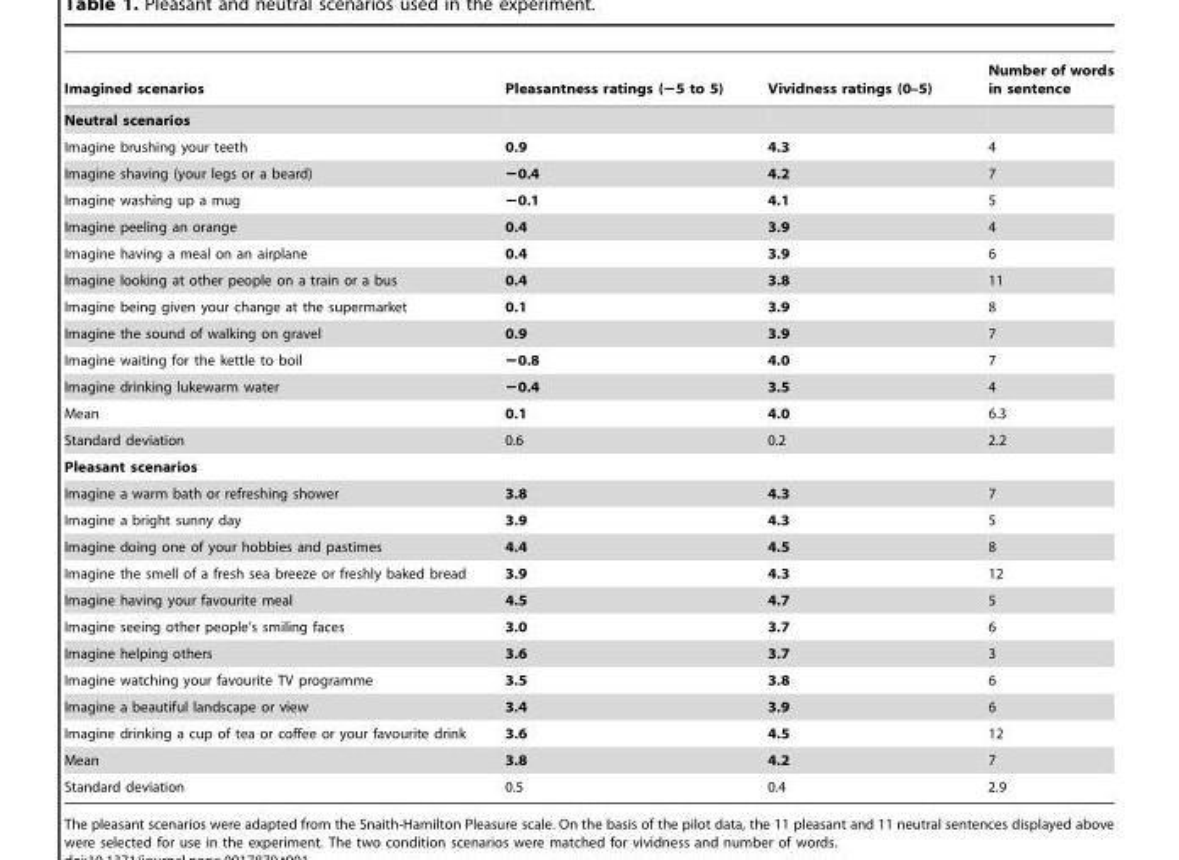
<table><thead><tr><td>Imagined scenarios</td><td>Pleasantness ratings (−5 to 5)</td><td>Vividness ratings (0–5)</td><td>Number of words in sentence</td></tr></thead><tbody><tr><td colspan="4">Neutral scenarios</td></tr><tr><td>Imagine brushing your teeth</td><td>0.9</td><td>4.3</td><td>4</td></tr><tr><td>Imagine shaving (your legs or a beard)</td><td>−0.4</td><td>4.2</td><td>7</td></tr><tr><td>Imagine washing up a mug</td><td>−0.1</td><td>4.1</td><td>5</td></tr><tr><td>Imagine peeling an orange</td><td>0.4</td><td>3.9</td><td>4</td></tr><tr><td>Imagine having a meal on an airplane</td><td>0.4</td><td>3.9</td><td>6</td></tr><tr><td>Imagine looking at other people on a train or a bus</td><td>0.4</td><td>3.8</td><td>11</td></tr><tr><td>Imagine being given your change at the supermarket</td><td>0.1</td><td>3.9</td><td>8</td></tr><tr><td>Imagine the sound of walking on gravel</td><td>0.9</td><td>3.9</td><td>7</td></tr><tr><td>Imagine waiting for the kettle to boil</td><td>−0.8</td><td>4.0</td><td>7</td></tr><tr><td>Imagine drinking lukewarm water</td><td>−0.4</td><td>3.5</td><td>4</td></tr><tr><td>Mean</td><td>0.1</td><td>4.0</td><td>6.3</td></tr><tr><td>Standard deviation</td><td>0.6</td><td>0.2</td><td>2.2</td></tr><tr><td colspan="4">Pleasant scenarios</td></tr><tr><td>Imagine a warm bath or refreshing shower</td><td>3.8</td><td>4.3</td><td>7</td></tr><tr><td>Imagine a bright sunny day</td><td>3.9</td><td>4.3</td><td>5</td></tr><tr><td>Imagine doing one of your hobbies and pastimes</td><td>4.4</td><td>4.5</td><td>8</td></tr><tr><td>Imagine the smell of a fresh sea breeze or freshly baked bread</td><td>3.9</td><td>4.3</td><td>12</td></tr><tr><td>Imagine having your favourite meal</td><td>4.5</td><td>4.7</td><td>5</td></tr><tr><td>Imagine seeing other people’s smiling faces</td><td>3.0</td><td>3.7</td><td>6</td></tr><tr><td>Imagine helping others</td><td>3.6</td><td>3.7</td><td>3</td></tr><tr><td>Imagine watching your favourite TV programme</td><td>3.5</td><td>3.8</td><td>6</td></tr><tr><td>Imagine a beautiful landscape or view</td><td>3.4</td><td>3.9</td><td>6</td></tr><tr><td>Imagine drinking a cup of tea or coffee or your favourite drink</td><td>3.6</td><td>4.5</td><td>12</td></tr><tr><td>Mean</td><td>3.8</td><td>4.2</td><td>7</td></tr><tr><td>Standard deviation</td><td>0.5</td><td>0.4</td><td>2.9</td></tr></tbody></table>